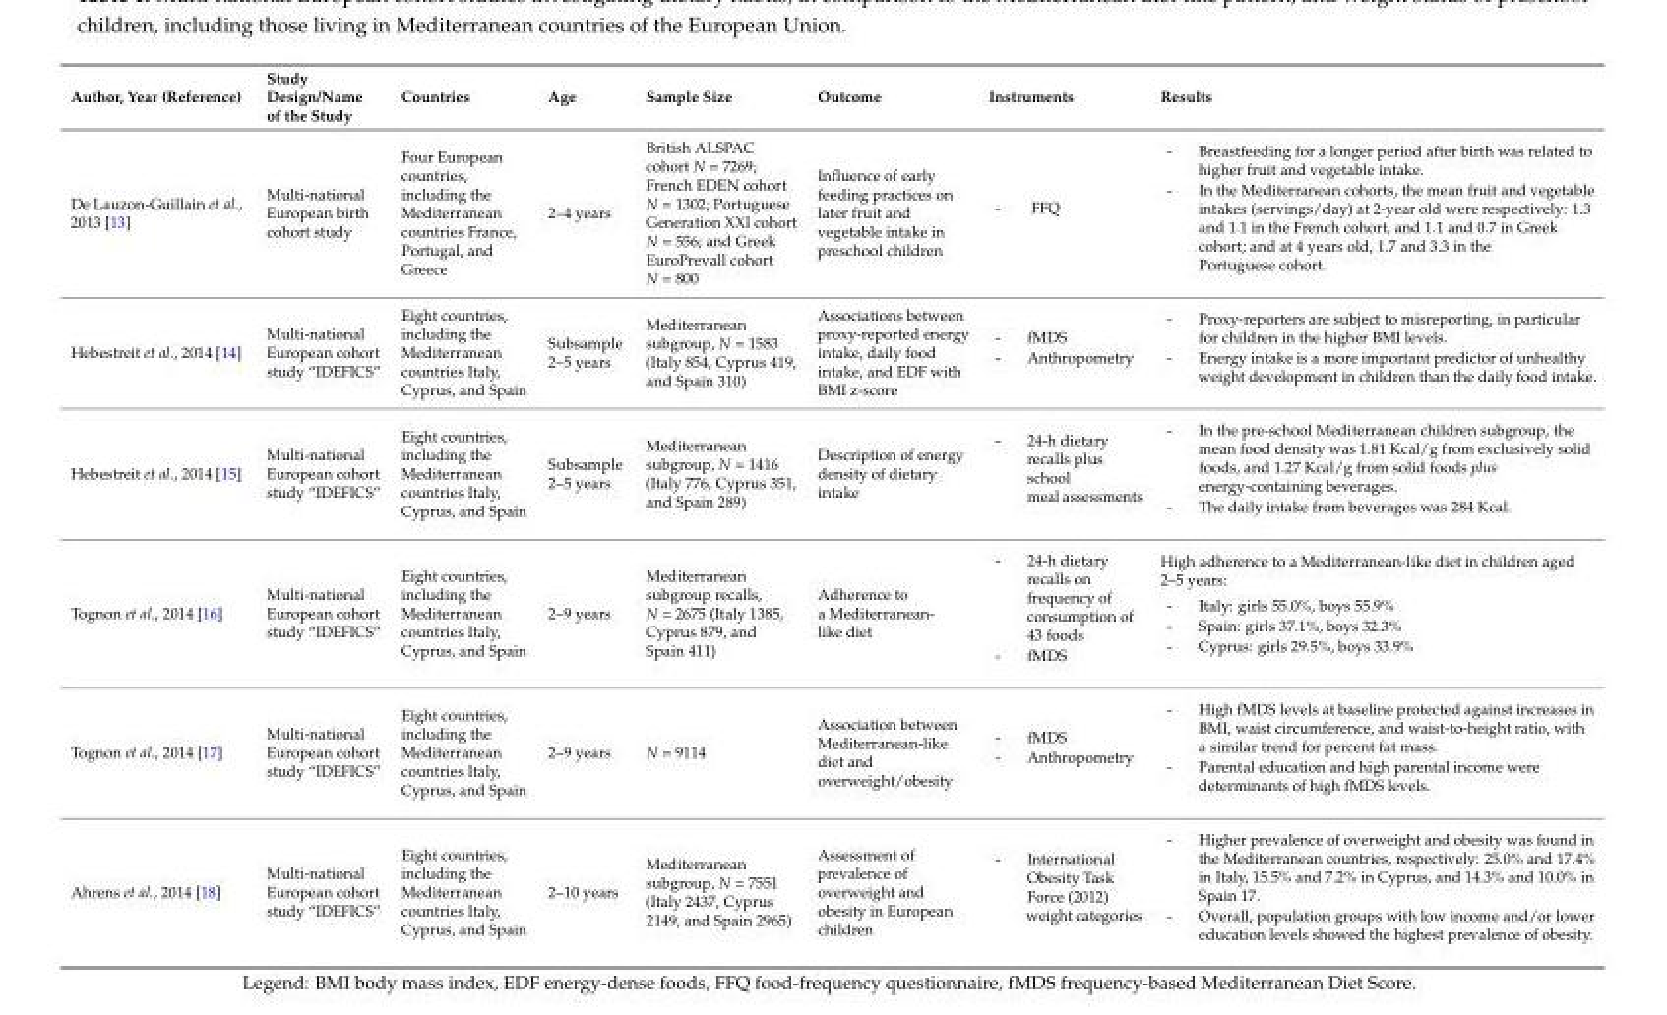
<table><thead><tr><td>Author, Year (Reference)</td><td>Study Design/Name of the Study</td><td>Countries</td><td>Age</td><td>Sample Size</td><td>Outcome</td><td>Instruments</td><td>Results</td></tr></thead><tbody><tr><td>De Lauzon-Guillain et al., 2013 [13]</td><td>Multi-national European birth cohort study</td><td>Four European countries, including the Mediterranean countries France, Portugal, and Greece</td><td>2–4 years</td><td>British ALSPAC cohort N = 7269; French EDEN cohort N = 1302; Portuguese Generation XXI cohort N = 556; and Greek EuroPrevall cohort N = 800</td><td>Influence of early feeding practices on later fruit and vegetable intake in preschool children</td><td>- FFQ</td><td>- Breastfeeding for a longer period after birth was related to higher fruit and vegetable intake. - In the Mediterranean cohorts, the mean fruit and vegetable intakes (servings/day) at 2-year old were respectively: 1.3 and 1.1 in the French cohort, and 1.1 and 0.7 in Greek cohort; and at 4 years old, 1.7 and 3.3 in the Portuguese cohort.</td></tr><tr><td>Hebestreit et al., 2014 [14]</td><td>Multi-national European cohort study “IDEFICS”</td><td>Eight countries, including the Mediterranean countries Italy, Cyprus, and Spain</td><td>Subsample 2–5 years</td><td>Mediterranean subgroup, N = 1583 (Italy 854, Cyprus 419, and Spain 310)</td><td>Associations between proxy-reported energy intake, daily food intake, and EDF with BMI z-score</td><td>- fMDS - Anthropometry</td><td>- Proxy-reporters are subject to misreporting, in particular for children in the higher BMI levels. - Energy intake is a more important predictor of unhealthy weight development in children than the daily food intake.</td></tr><tr><td>Hebestreit et al., 2014 [15]</td><td>Multi-national European cohort study “IDEFICS”</td><td>Eight countries, including the Mediterranean countries Italy, Cyprus, and Spain</td><td>Subsample 2–5 years</td><td>Mediterranean subgroup, N = 1416 (Italy 776, Cyprus 351, and Spain 289)</td><td>Description of energy density of dietary intake</td><td>- 24-h dietary recalls plus school meal assessments</td><td>- In the pre-school Mediterranean children subgroup, the mean food density was 1.81 Kcal/g from exclusively solid foods, and 1.27 Kcal/g from solid foods plus energy-containing beverages. - The daily intake from beverages was 284 Kcal.</td></tr><tr><td>Tognon et al., 2014 [16]</td><td>Multi-national European cohort study “IDEFICS”</td><td>Eight countries, including the Mediterranean countries Italy, Cyprus, and Spain</td><td>2–9 years</td><td>Mediterranean subgroup recalls, N = 2675 (Italy 1385, Cyprus 879, and Spain 411)</td><td>Adherence to a Mediterranean- like diet</td><td>- 24-h dietary recalls on frequency of consumption of 43 foods - fMDS</td><td>High adherence to a Mediterranean-like diet in children aged 2–5 years: - Italy: girls 55.0%, boys 55.9% - Spain: girls 37.1%, boys 32.3% - Cyprus: girls 29.5%, boys 33.9%</td></tr><tr><td>Tognon et al., 2014 [17]</td><td>Multi-national European cohort study “IDEFICS”</td><td>Eight countries, including the Mediterranean countries Italy, Cyprus, and Spain</td><td>2–9 years</td><td>N = 9114</td><td>Association between Mediterranean-like diet and overweight/obesity</td><td>- fMDS - Anthropometry</td><td>- High fMDS levels at baseline protected against increases in BMI, waist circumference, and waist-to-height ratio, with a similar trend for percent fat mass. - Parental education and high parental income were determinants of high fMDS levels.</td></tr><tr><td>Ahrens et al., 2014 [18]</td><td>Multi-national European cohort study “IDEFICS”</td><td>Eight countries, including the Mediterranean countries Italy, Cyprus, and Spain</td><td>2–10 years</td><td>Mediterranean subgroup, N = 7551 (Italy 2437, Cyprus 2149, and Spain 2965)</td><td>Assessment of prevalence of overweight and obesity in European children</td><td>- International Obesity Task Force (2012) weight categories</td><td>- Higher prevalence of overweight and obesity was found in the Mediterranean countries, respectively: 25.0% and 17.4% in Italy, 15.5% and 7.2% in Cyprus, and 14.3% and 10.0% in Spain 17. - Overall, population groups with low income and/or lower education levels showed the highest prevalence of obesity.</td></tr></tbody></table>